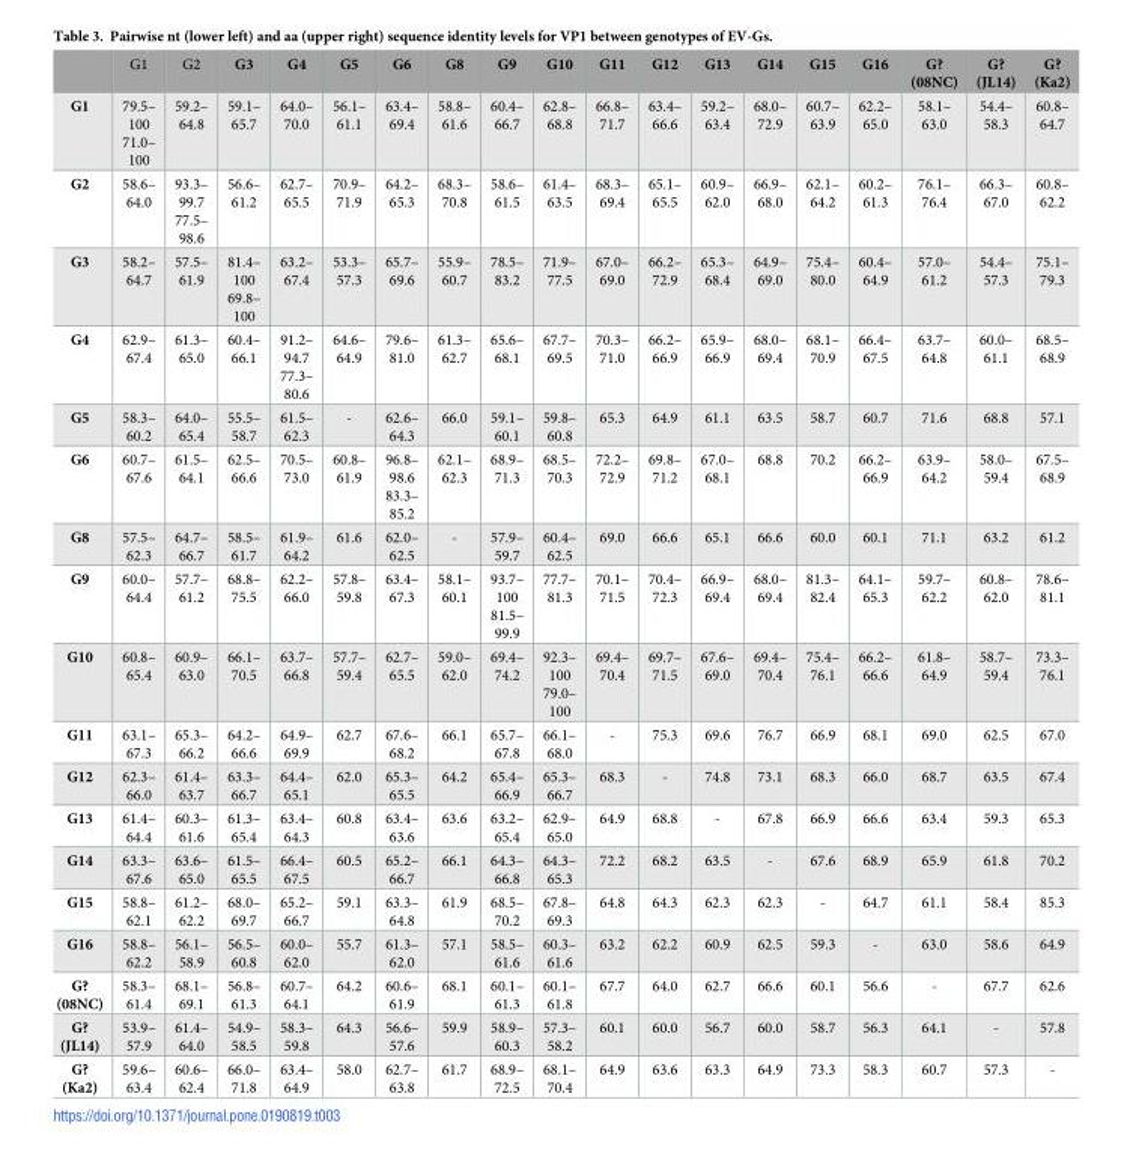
<table><thead><tr><td></td><td>G1</td><td>G2</td><td>G3</td><td>G4</td><td>G5</td><td>G6</td><td>G8</td><td>G9</td><td>G10</td><td>G11</td><td>G12</td><td>G13</td><td>G14</td><td>G15</td><td>G16</td><td>G? (08NC)</td><td>G? (JL14)</td><td>G? (Ka2)</td></tr></thead><tbody><tr><td>G1</td><td>79.5– 100 71.0– 100</td><td>59.2– 64.8</td><td>59.1– 65.7</td><td>64.0– 70.0</td><td>56.1– 61.1</td><td>63.4– 69.4</td><td>58.8– 61.6</td><td>60.4– 66.7</td><td>62.8– 68.8</td><td>66.8– 71.7</td><td>63.4– 66.6</td><td>59.2– 63.4</td><td>68.0– 72.9</td><td>60.7– 63.9</td><td>62.2– 65.0</td><td>58.1– 63.0</td><td>54.4– 58.3</td><td>60.8– 64.7</td></tr><tr><td>G2</td><td>58.6– 64.0</td><td>93.3– 99.7 77.5– 98.6</td><td>56.6– 61.2</td><td>62.7– 65.5</td><td>70.9– 71.9</td><td>64.2– 65.3</td><td>68.3– 70.8</td><td>58.6– 61.5</td><td>61.4– 63.5</td><td>68.3– 69.4</td><td>65.1– 65.5</td><td>60.9– 62.0</td><td>66.9– 68.0</td><td>62.1– 64.2</td><td>60.2– 61.3</td><td>76.1– 76.4</td><td>66.3– 67.0</td><td>60.8– 62.2</td></tr><tr><td>G3</td><td>58.2– 64.7</td><td>57.5– 61.9</td><td>81.4– 100 69.8– 100</td><td>63.2– 67.4</td><td>53.3– 57.3</td><td>65.7– 69.6</td><td>55.9– 60.7</td><td>78.5– 83.2</td><td>71.9– 77.5</td><td>67.0– 69.0</td><td>66.2– 72.9</td><td>65.3– 68.4</td><td>64.9– 69.0</td><td>75.4– 80.0</td><td>60.4– 64.9</td><td>57.0– 61.2</td><td>54.4– 57.3</td><td>75.1– 79.3</td></tr><tr><td>G4</td><td>62.9– 67.4</td><td>61.3– 65.0</td><td>60.4– 66.1</td><td>91.2– 94.7 77.3– 80.6</td><td>64.6– 64.9</td><td>79.6– 81.0</td><td>61.3– 62.7</td><td>65.6– 68.1</td><td>67.7– 69.5</td><td>70.3– 71.0</td><td>66.2– 66.9</td><td>65.9– 66.9</td><td>68.0– 69.4</td><td>68.1– 70.9</td><td>66.4– 67.5</td><td>63.7– 64.8</td><td>60.0– 61.1</td><td>68.5– 68.9</td></tr><tr><td>G5</td><td>58.3– 60.2</td><td>64.0– 65.4</td><td>55.5– 58.7</td><td>61.5– 62.3</td><td>-</td><td>62.6– 64.3</td><td>66.0</td><td>59.1– 60.1</td><td>59.8– 60.8</td><td>65.3</td><td>64.9</td><td>61.1</td><td>63.5</td><td>58.7</td><td>60.7</td><td>71.6</td><td>68.8</td><td>57.1</td></tr><tr><td>G6</td><td>60.7– 67.6</td><td>61.5– 64.1</td><td>62.5– 66.6</td><td>70.5– 73.0</td><td>60.8– 61.9</td><td>96.8– 98.6 83.3– 85.2</td><td>62.1– 62.3</td><td>68.9– 71.3</td><td>68.5– 70.3</td><td>72.2– 72.9</td><td>69.8– 71.2</td><td>67.0– 68.1</td><td>68.8</td><td>70.2</td><td>66.2– 66.9</td><td>63.9– 64.2</td><td>58.0– 59.4</td><td>67.5– 68.9</td></tr><tr><td>G8</td><td>57.5– 62.3</td><td>64.7– 66.7</td><td>58.5– 61.7</td><td>61.9– 64.2</td><td>61.6</td><td>62.0– 62.5</td><td>-</td><td>57.9– 59.7</td><td>60.4– 62.5</td><td>69.0</td><td>66.6</td><td>65.1</td><td>66.6</td><td>60.0</td><td>60.1</td><td>71.1</td><td>63.2</td><td>61.2</td></tr><tr><td>G9</td><td>60.0– 64.4</td><td>57.7– 61.2</td><td>68.8– 75.5</td><td>62.2– 66.0</td><td>57.8– 59.8</td><td>63.4– 67.3</td><td>58.1– 60.1</td><td>93.7– 100 81.5– 99.9</td><td>77.7– 81.3</td><td>70.1– 71.5</td><td>70.4– 72.3</td><td>66.9– 69.4</td><td>68.0– 69.4</td><td>81.3– 82.4</td><td>64.1– 65.3</td><td>59.7– 62.2</td><td>60.8– 62.0</td><td>78.6– 81.1</td></tr><tr><td>G10</td><td>60.8– 65.4</td><td>60.9– 63.0</td><td>66.1– 70.5</td><td>63.7– 66.8</td><td>57.7– 59.4</td><td>62.7– 65.5</td><td>59.0– 62.0</td><td>69.4– 74.2</td><td>92.3– 100 79.0– 100</td><td>69.4– 70.4</td><td>69.7– 71.5</td><td>67.6– 69.0</td><td>69.4– 70.4</td><td>75.4– 76.1</td><td>66.2– 66.6</td><td>61.8– 64.9</td><td>58.7– 59.4</td><td>73.3– 76.1</td></tr><tr><td>G11</td><td>63.1– 67.3</td><td>65.3– 66.2</td><td>64.2– 66.6</td><td>64.9– 69.9</td><td>62.7</td><td>67.6– 68.2</td><td>66.1</td><td>65.7– 67.8</td><td>66.1– 68.0</td><td>-</td><td>75.3</td><td>69.6</td><td>76.7</td><td>66.9</td><td>68.1</td><td>69.0</td><td>62.5</td><td>67.0</td></tr><tr><td>G12</td><td>62.3– 66.0</td><td>61.4– 63.7</td><td>63.3– 66.7</td><td>64.4– 65.1</td><td>62.0</td><td>65.3– 65.5</td><td>64.2</td><td>65.4– 66.9</td><td>65.3– 66.7</td><td>68.3</td><td>-</td><td>74.8</td><td>73.1</td><td>68.3</td><td>66.0</td><td>68.7</td><td>63.5</td><td>67.4</td></tr><tr><td>G13</td><td>61.4– 64.4</td><td>60.3– 61.6</td><td>61.3– 65.4</td><td>63.4– 64.3</td><td>60.8</td><td>63.4– 63.6</td><td>63.6</td><td>63.2– 65.4</td><td>62.9– 65.0</td><td>64.9</td><td>68.8</td><td>-</td><td>67.8</td><td>66.9</td><td>66.6</td><td>63.4</td><td>59.3</td><td>65.3</td></tr><tr><td>G14</td><td>63.3– 67.6</td><td>63.6– 65.0</td><td>61.5– 65.5</td><td>66.4– 67.5</td><td>60.5</td><td>65.2– 66.7</td><td>66.1</td><td>64.3– 66.8</td><td>64.3– 65.3</td><td>72.2</td><td>68.2</td><td>63.5</td><td>-</td><td>67.6</td><td>68.9</td><td>65.9</td><td>61.8</td><td>70.2</td></tr><tr><td>G15</td><td>58.8– 62.1</td><td>61.2– 62.2</td><td>68.0– 69.7</td><td>65.2– 66.7</td><td>59.1</td><td>63.3– 64.8</td><td>61.9</td><td>68.5– 70.2</td><td>67.8– 69.3</td><td>64.8</td><td>64.3</td><td>62.3</td><td>62.3</td><td>-</td><td>64.7</td><td>61.1</td><td>58.4</td><td>85.3</td></tr><tr><td>G16</td><td>58.8– 62.2</td><td>56.1– 58.9</td><td>56.5– 60.8</td><td>60.0– 62.0</td><td>55.7</td><td>61.3– 62.0</td><td>57.1</td><td>58.5– 61.6</td><td>60.3– 61.6</td><td>63.2</td><td>62.2</td><td>60.9</td><td>62.5</td><td>59.3</td><td>-</td><td>63.0</td><td>58.6</td><td>64.9</td></tr><tr><td>G? (08NC)</td><td>58.3– 61.4</td><td>68.1– 69.1</td><td>56.8– 61.3</td><td>60.7– 64.1</td><td>64.2</td><td>60.6– 61.9</td><td>68.1</td><td>60.1– 61.3</td><td>60.1– 61.8</td><td>67.7</td><td>64.0</td><td>62.7</td><td>66.6</td><td>60.1</td><td>56.6</td><td>-</td><td>67.7</td><td>62.6</td></tr><tr><td>G? (JL14)</td><td>53.9– 57.9</td><td>61.4– 64.0</td><td>54.9– 58.5</td><td>58.3– 59.8</td><td>64.3</td><td>56.6– 57.6</td><td>59.9</td><td>58.9– 60.3</td><td>57.3– 58.2</td><td>60.1</td><td>60.0</td><td>56.7</td><td>60.0</td><td>58.7</td><td>56.3</td><td>64.1</td><td>-</td><td>57.8</td></tr><tr><td>G? (Ka2)</td><td>59.6– 63.4</td><td>60.6– 62.4</td><td>66.0– 71.8</td><td>63.4– 64.9</td><td>58.0</td><td>62.7– 63.8</td><td>61.7</td><td>68.9– 72.5</td><td>68.1– 70.4</td><td>64.9</td><td>63.6</td><td>63.3</td><td>64.9</td><td>73.3</td><td>58.3</td><td>60.7</td><td>57.3</td><td>-</td></tr></tbody></table>